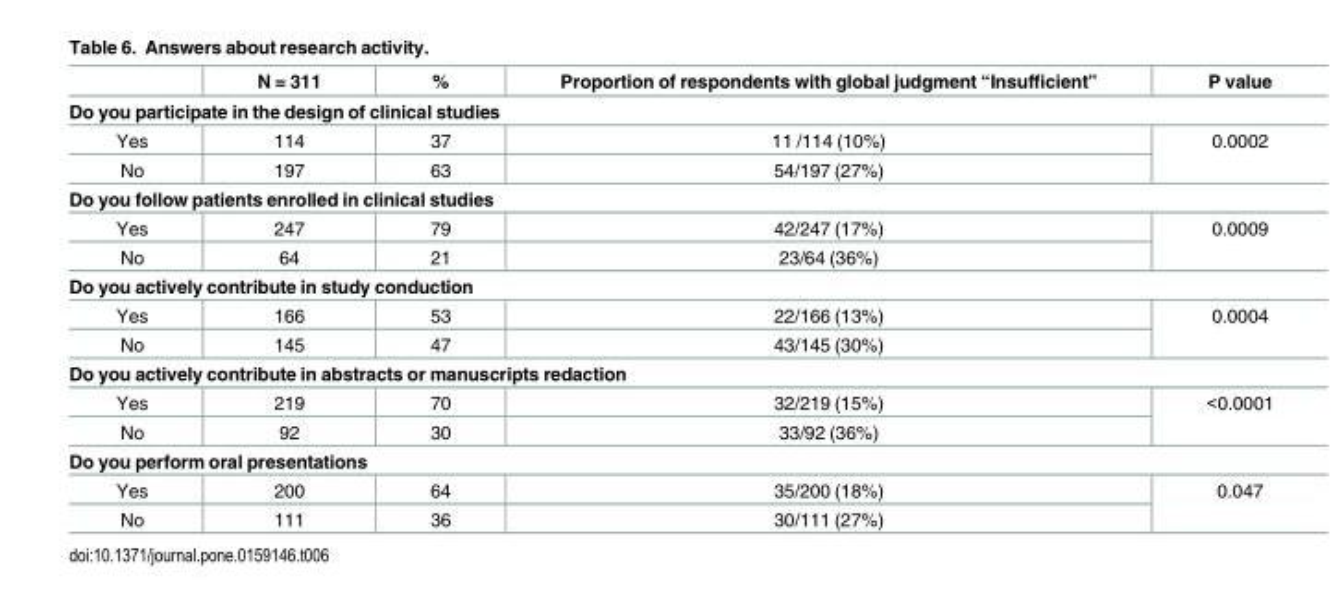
<table><thead><tr><td></td><td>N = 311</td><td>%</td><td>Proportion of respondents with global judgment “Insufficient”</td><td>P value</td></tr></thead><tbody><tr><td colspan="5">Do you participate in the design of clinical studies</td></tr><tr><td>Yes</td><td>114</td><td>37</td><td>11 /114 (10%)</td><td rowspan="2">0.0002</td></tr><tr><td>No</td><td>197</td><td>63</td><td>54/197 (27%)</td></tr><tr><td colspan="5">Do you follow patients enrolled in clinical studies</td></tr><tr><td>Yes</td><td>247</td><td>79</td><td>42/247 (17%)</td><td rowspan="2">0.0009</td></tr><tr><td>No</td><td>64</td><td>21</td><td>23/64 (36%)</td></tr><tr><td colspan="5">Do you actively contribute in study conduction</td></tr><tr><td>Yes</td><td>166</td><td>53</td><td>22/166 (13%)</td><td rowspan="2">0.0004</td></tr><tr><td>No</td><td>145</td><td>47</td><td>43/145 (30%)</td></tr><tr><td colspan="5">Do you actively contribute in abstracts or manuscripts redaction</td></tr><tr><td>Yes</td><td>219</td><td>70</td><td>32/219 (15%)</td><td rowspan="2">&lt;0.0001</td></tr><tr><td>No</td><td>92</td><td>30</td><td>33/92 (36%)</td></tr><tr><td colspan="5">Do you perform oral presentations</td></tr><tr><td>Yes</td><td>200</td><td>64</td><td>35/200 (18%)</td><td rowspan="2">0.047</td></tr><tr><td>No</td><td>111</td><td>36</td><td>30/111 (27%)</td></tr></tbody></table>